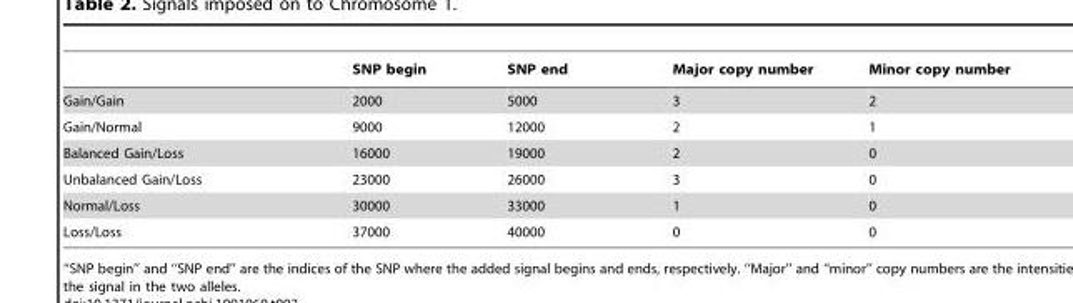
<table><thead><tr><td></td><td>SNP begin</td><td>SNP end</td><td>Major copy number</td><td>Minor copy number</td></tr></thead><tbody><tr><td>Gain/Gain</td><td>2000</td><td>5000</td><td>3</td><td>2</td></tr><tr><td>Gain/Normal</td><td>9000</td><td>12000</td><td>2</td><td>1</td></tr><tr><td>Balanced Gain/Loss</td><td>16000</td><td>19000</td><td>2</td><td>0</td></tr><tr><td>Unbalanced Gain/Loss</td><td>23000</td><td>26000</td><td>3</td><td>0</td></tr><tr><td>Normal/Loss</td><td>30000</td><td>33000</td><td>1</td><td>0</td></tr><tr><td>Loss/Loss</td><td>37000</td><td>40000</td><td>0</td><td>0</td></tr></tbody></table>